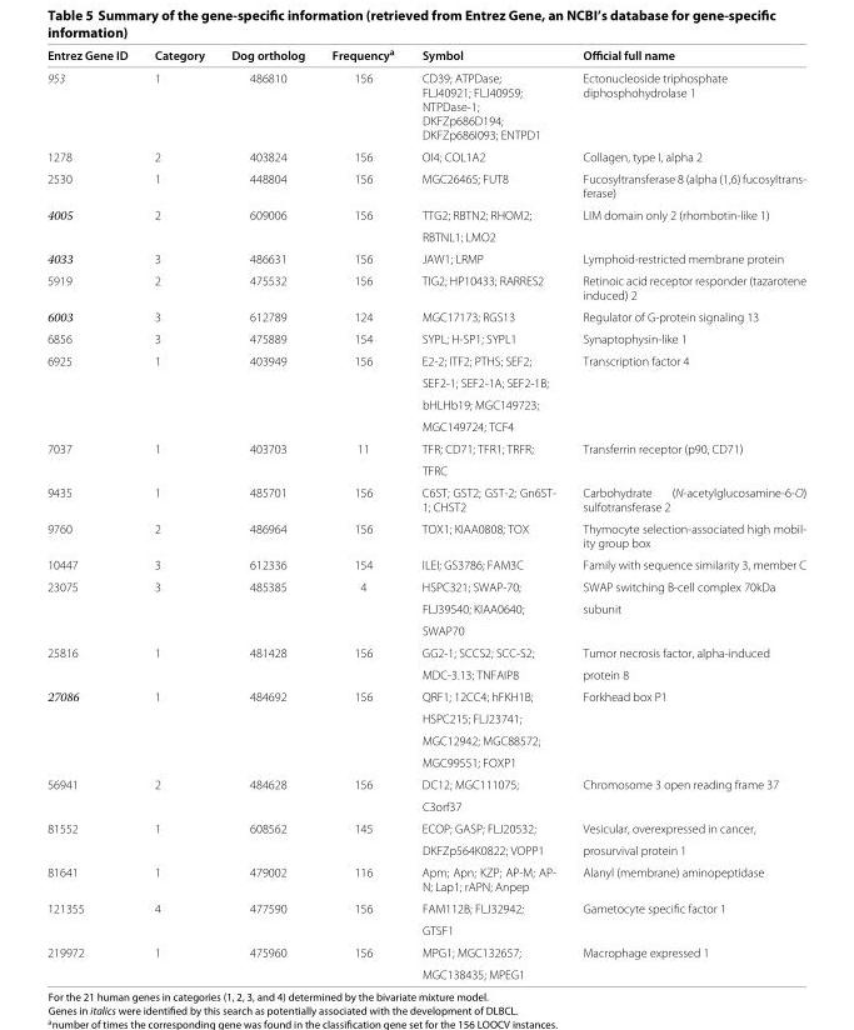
<table><thead><tr><td>Entrez Gene ID</td><td>Category</td><td>Dog ortholog</td><td>Frequency<sup>a</sup></td><td>Symbol</td><td>Official full name</td></tr></thead><tbody><tr><td rowspan="3">953</td><td>1</td><td>486810</td><td>156</td><td>CD39; ATPDase;</td><td>Ectonucleoside triphosphate</td></tr><tr><td></td><td></td><td></td><td>FLJ40921; FLJ40959;</td><td>diphosphohydrolase 1</td></tr><tr><td></td><td></td><td></td><td>NTPDase-1; DKFZp686D194; DKFZp686I093; ENTPD1</td><td></td></tr><tr><td>1278</td><td>2</td><td>403824</td><td>156</td><td>OI4; COL1A2</td><td>Collagen, type I, alpha 2</td></tr><tr><td>2530</td><td>1</td><td>448804</td><td>156</td><td>MGC26465; FUT8</td><td>Fucosyltransferase 8 (alpha (1,6) fucosyltrans- ferase)</td></tr><tr><td rowspan="2">4005</td><td>2</td><td>609006</td><td>156</td><td>TTG2; RBTN2; RHOM2;</td><td>LIM domain only 2 (rhombotin-like 1)</td></tr><tr><td></td><td></td><td></td><td>RBTNL1; LMO2</td><td></td></tr><tr><td>4033</td><td>3</td><td>486631</td><td>156</td><td>JAW1; LRMP</td><td>Lymphoid-restricted membrane protein</td></tr><tr><td>5919</td><td>2</td><td>475532</td><td>156</td><td>TIG2; HP10433; RARRES2</td><td>Retinoic acid receptor responder (tazarotene induced) 2</td></tr><tr><td>6003</td><td>3</td><td>612789</td><td>124</td><td>MGC17173; RGS13</td><td>Regulator of G-protein signaling 13</td></tr><tr><td>6856</td><td>3</td><td>475889</td><td>154</td><td>SYPL; H-SP1; SYPL1</td><td>Synaptophysin-like 1</td></tr><tr><td rowspan="4">6925</td><td>1</td><td>403949</td><td>156</td><td>E2-2; ITF2; PTHS; SEF2;</td><td>Transcription factor 4</td></tr><tr><td></td><td></td><td></td><td>SEF2-1; SEF2-1A; SEF2-1B;</td><td></td></tr><tr><td></td><td></td><td></td><td>bHLHb19; MGC149723;</td><td></td></tr><tr><td></td><td></td><td></td><td>MGC149724; TCF4</td><td></td></tr><tr><td rowspan="2">7037</td><td>1</td><td>403703</td><td>11</td><td>TFR; CD71; TFR1; TRFR;</td><td>Transferrin receptor (p90, CD71)</td></tr><tr><td></td><td></td><td></td><td>TFRC</td><td></td></tr><tr><td>9435</td><td>1</td><td>485701</td><td>156</td><td>C6ST; GST2; GST-2; Gn6ST- 1; CHST2</td><td>Carbohydrate (N-acetylglucosamine-6-O) sulfotransferase 2</td></tr><tr><td>9760</td><td>2</td><td>486964</td><td>156</td><td>TOX1; KIAA0808; TOX</td><td>Thymocyte selection-associated high mobil- ity group box</td></tr><tr><td>10447</td><td>3</td><td>612336</td><td>154</td><td>ILEI; GS3786; FAM3C</td><td>Family with sequence similarity 3, member C</td></tr><tr><td rowspan="3">23075</td><td>3</td><td>485385</td><td>4</td><td>HSPC321; SWAP-70;</td><td>SWAP switching B-cell complex 70kDa</td></tr><tr><td></td><td></td><td></td><td>FLJ39540; KIAA0640;</td><td>subunit</td></tr><tr><td></td><td></td><td></td><td>SWAP70</td><td></td></tr><tr><td rowspan="2">25816</td><td>1</td><td>481428</td><td>156</td><td>GG2-1; SCCS2; SCC-S2;</td><td>Tumor necrosis factor, alpha-induced</td></tr><tr><td></td><td></td><td></td><td>MDC-3.13; TNFAIP8</td><td>protein 8</td></tr><tr><td rowspan="4">27086</td><td>1</td><td>484692</td><td>156</td><td>QRF1; 12CC4; hFKH1B;</td><td>Forkhead box P1</td></tr><tr><td></td><td></td><td></td><td>HSPC215; FLJ23741;</td><td></td></tr><tr><td></td><td></td><td></td><td>MGC12942; MGC88572;</td><td></td></tr><tr><td></td><td></td><td></td><td>MGC99551; FOXP1</td><td></td></tr><tr><td rowspan="2">56941</td><td>2</td><td>484628</td><td>156</td><td>DC12; MGC111075;</td><td>Chromosome 3 open reading frame 37</td></tr><tr><td></td><td></td><td></td><td>C3orf37</td><td></td></tr><tr><td rowspan="2">81552</td><td>1</td><td>608562</td><td>145</td><td>ECOP; GASP; FLJ20532;</td><td>Vesicular, overexpressed in cancer,</td></tr><tr><td></td><td></td><td></td><td>DKFZp564K0822; VOPP1</td><td>prosurvival protein 1</td></tr><tr><td>81641</td><td>1</td><td>479002</td><td>116</td><td>Apm; Apn; KZP; AP-M; AP- N; Lap1; rAPN; Anpep</td><td>Alanyl (membrane) aminopeptidase</td></tr><tr><td rowspan="2">121355</td><td>4</td><td>477590</td><td>156</td><td>FAM112B; FLJ32942;</td><td>Gametocyte specific factor 1</td></tr><tr><td></td><td></td><td></td><td>GTSF1</td><td></td></tr><tr><td rowspan="2">219972</td><td>1</td><td>475960</td><td>156</td><td>MPG1; MGC132657;</td><td>Macrophage expressed 1</td></tr><tr><td></td><td></td><td></td><td>MGC138435; MPEG1</td><td></td></tr></tbody></table>